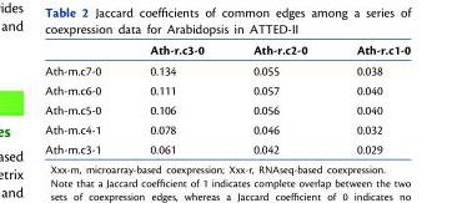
<table><thead><tr><td></td><td>Ath-r.c3-0</td><td>Ath-r.c2-0</td><td>Ath-r.c1-0</td></tr></thead><tbody><tr><td>Ath-m.c7-0</td><td>0.134</td><td>0.055</td><td>0.038</td></tr><tr><td>Ath-m.c6-0</td><td>0.111</td><td>0.057</td><td>0.040</td></tr><tr><td>Ath-m.c5-0</td><td>0.106</td><td>0.056</td><td>0.040</td></tr><tr><td>Ath-m.c4-1</td><td>0.078</td><td>0.046</td><td>0.032</td></tr><tr><td>Ath-m.c3-1</td><td>0.061</td><td>0.042</td><td>0.029</td></tr></tbody></table>